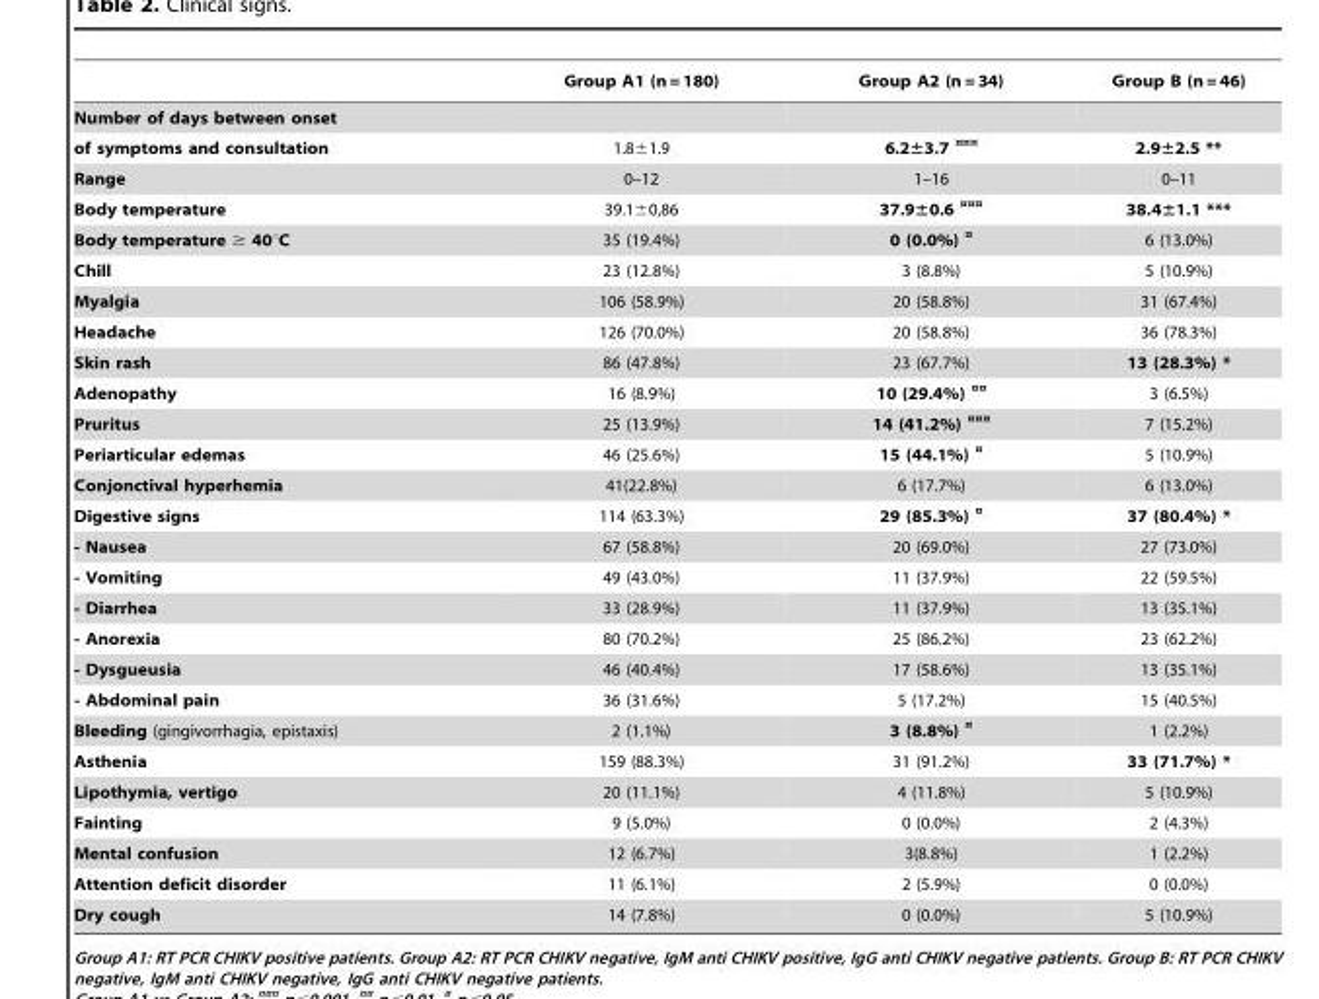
<table><thead><tr><td></td><td>Group A1 (n = 180)</td><td>Group A2 (n = 34)</td><td>Group B (n = 46)</td></tr></thead><tbody><tr><td colspan="4">Number of days between onset</td></tr><tr><td>of symptoms and consultation</td><td>1.8±1.9</td><td>6.2±3.7 <sup>¤¤¤</sup></td><td>2.9±2.5 **</td></tr><tr><td>Range</td><td>0–12</td><td>1–16</td><td>0–11</td></tr><tr><td>Body temperature</td><td>39.1±0,86</td><td>37.9±0.6 <sup>¤¤¤</sup></td><td>38.4±1.1 ***</td></tr><tr><td>Body temperature ≥ 40°C</td><td>35 (19.4%)</td><td>0 (0.0%) <sup>¤</sup></td><td>6 (13.0%)</td></tr><tr><td>Chill</td><td>23 (12.8%)</td><td>3 (8.8%)</td><td>5 (10.9%)</td></tr><tr><td>Myalgia</td><td>106 (58.9%)</td><td>20 (58.8%)</td><td>31 (67.4%)</td></tr><tr><td>Headache</td><td>126 (70.0%)</td><td>20 (58.8%)</td><td>36 (78.3%)</td></tr><tr><td>Skin rash</td><td>86 (47.8%)</td><td>23 (67.7%)</td><td>13 (28.3%) *</td></tr><tr><td>Adenopathy</td><td>16 (8.9%)</td><td>10 (29.4%) <sup>¤¤</sup></td><td>3 (6.5%)</td></tr><tr><td>Pruritus</td><td>25 (13.9%)</td><td>14 (41.2%) <sup>¤¤¤</sup></td><td>7 (15.2%)</td></tr><tr><td>Periarticular edemas</td><td>46 (25.6%)</td><td>15 (44.1%) <sup>¤</sup></td><td>5 (10.9%)</td></tr><tr><td>Conjonctival hyperhemia</td><td>41(22.8%)</td><td>6 (17.7%)</td><td>6 (13.0%)</td></tr><tr><td>Digestive signs</td><td>114 (63.3%)</td><td>29 (85.3%) <sup>¤</sup></td><td>37 (80.4%) *</td></tr><tr><td>- Nausea</td><td>67 (58.8%)</td><td>20 (69.0%)</td><td>27 (73.0%)</td></tr><tr><td>- Vomiting</td><td>49 (43.0%)</td><td>11 (37.9%)</td><td>22 (59.5%)</td></tr><tr><td>- Diarrhea</td><td>33 (28.9%)</td><td>11 (37.9%)</td><td>13 (35.1%)</td></tr><tr><td>- Anorexia</td><td>80 (70.2%)</td><td>25 (86.2%)</td><td>23 (62.2%)</td></tr><tr><td>- Dysgueusia</td><td>46 (40.4%)</td><td>17 (58.6%)</td><td>13 (35.1%)</td></tr><tr><td>- Abdominal pain</td><td>36 (31.6%)</td><td>5 (17.2%)</td><td>15 (40.5%)</td></tr><tr><td>Bleeding (gingivorrhagia, epistaxis)</td><td>2 (1.1%)</td><td>3 (8.8%) <sup>¤</sup></td><td>1 (2.2%)</td></tr><tr><td>Asthenia</td><td>159 (88.3%)</td><td>31 (91.2%)</td><td>33 (71.7%) *</td></tr><tr><td>Lipothymia, vertigo</td><td>20 (11.1%)</td><td>4 (11.8%)</td><td>5 (10.9%)</td></tr><tr><td>Fainting</td><td>9 (5.0%)</td><td>0 (0.0%)</td><td>2 (4.3%)</td></tr><tr><td>Mental confusion</td><td>12 (6.7%)</td><td>3(8.8%)</td><td>1 (2.2%)</td></tr><tr><td>Attention deficit disorder</td><td>11 (6.1%)</td><td>2 (5.9%)</td><td>0 (0.0%)</td></tr><tr><td>Dry cough</td><td>14 (7.8%)</td><td>0 (0.0%)</td><td>5 (10.9%)</td></tr></tbody></table>